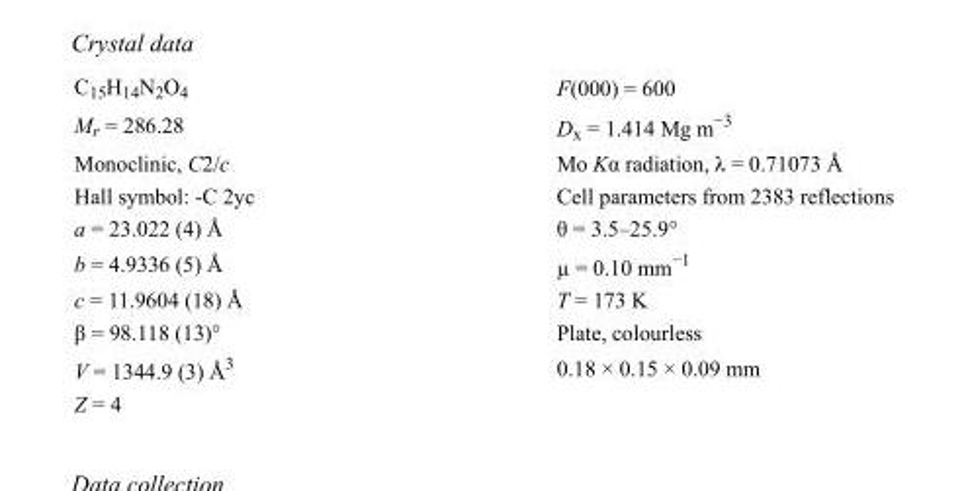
<table><tbody><tr><td>C<sub>15</sub>H<sub>14</sub>N<sub>2</sub>O<sub>4</sub></td><td>F(000) = 600</td></tr><tr><td>M<sub>r</sub> = 286.28</td><td>D<sub>x</sub> = 1.414 Mg m<sup>−3</sup></td></tr><tr><td>Monoclinic, C2/c</td><td>Mo Kα radiation, λ = 0.71073 Å</td></tr><tr><td>Hall symbol: -C 2yc</td><td>Cell parameters from 2383 reflections</td></tr><tr><td>a = 23.022 (4) Å</td><td>θ = 3.5–25.9°</td></tr><tr><td>b = 4.9336 (5) Å</td><td>µ = 0.10 mm<sup>−1</sup></td></tr><tr><td>c = 11.9604 (18) Å</td><td>T = 173 K</td></tr><tr><td>β = 98.118 (13)°</td><td>Plate, colourless</td></tr><tr><td>V = 1344.9 (3) Å<sup>3</sup></td><td>0.18 × 0.15 × 0.09 mm</td></tr><tr><td>Z = 4</td><td></td></tr></tbody></table>